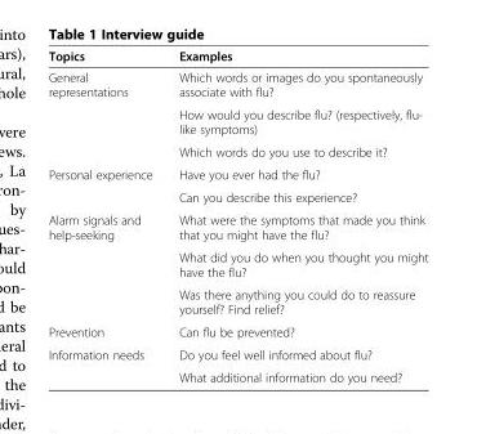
<table><thead><tr><td>Topics</td><td>Examples</td></tr></thead><tbody><tr><td rowspan="3">General representations</td><td>Which words or images do you spontaneously associate with flu?</td></tr><tr><td>How would you describe flu? (respectively, flu- like symptoms)</td></tr><tr><td>Which words do you use to describe it?</td></tr><tr><td rowspan="2">Personal experience</td><td>Have you ever had the flu?</td></tr><tr><td>Can you describe this experience?</td></tr><tr><td rowspan="3">Alarm signals and help-seeking</td><td>What were the symptoms that made you think that you might have the flu?</td></tr><tr><td>What did you do when you thought you might have the flu?</td></tr><tr><td>Was there anything you could do to reassure yourself? Find relief?</td></tr><tr><td>Prevention</td><td>Can flu be prevented?</td></tr><tr><td rowspan="2">Information needs</td><td>Do you feel well informed about flu?</td></tr><tr><td>What additional information do you need?</td></tr></tbody></table>